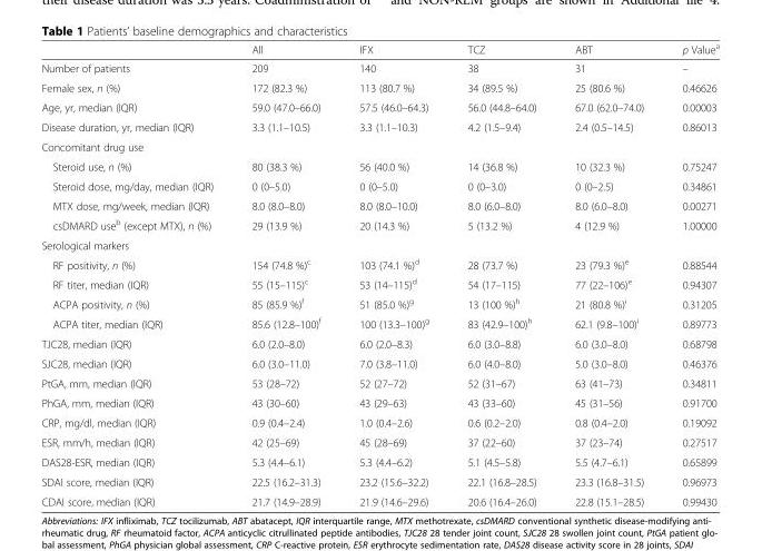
<table><thead><tr><td></td><td>All</td><td>IFX</td><td>TCZ</td><td>ABT</td><td>p Value<sup>a</sup></td></tr></thead><tbody><tr><td>Number of patients</td><td>209</td><td>140</td><td>38</td><td>31</td><td>–</td></tr><tr><td>Female sex, n (%)</td><td>172 (82.3 %)</td><td>113 (80.7 %)</td><td>34 (89.5 %)</td><td>25 (80.6 %)</td><td>0.46626</td></tr><tr><td>Age, yr, median (IQR)</td><td>59.0 (47.0–66.0)</td><td>57.5 (46.0–64.3)</td><td>56.0 (44.8–64.0)</td><td>67.0 (62.0–74.0)</td><td>0.00003</td></tr><tr><td>Disease duration, yr, median (IQR)</td><td>3.3 (1.1–10.5)</td><td>3.3 (1.1–10.3)</td><td>4.2 (1.5–9.4)</td><td>2.4 (0.5–14.5)</td><td>0.86013</td></tr><tr><td colspan="6">Concomitant drug use</td></tr><tr><td>Steroid use, n (%)</td><td>80 (38.3 %)</td><td>56 (40.0 %)</td><td>14 (36.8 %)</td><td>10 (32.3 %)</td><td>0.75247</td></tr><tr><td>Steroid dose, mg/day, median (IQR)</td><td>0 (0–5.0)</td><td>0 (0–5.0)</td><td>0 (0–3.0)</td><td>0 (0–2.5)</td><td>0.34861</td></tr><tr><td>MTX dose, mg/week, median (IQR)</td><td>8.0 (8.0–8.0)</td><td>8.0 (8.0–10.0)</td><td>8.0 (6.0–8.0)</td><td>8.0 (6.0–8.0)</td><td>0.00271</td></tr><tr><td>csDMARD use<sup>b</sup> (except MTX), n (%)</td><td>29 (13.9 %)</td><td>20 (14.3 %)</td><td>5 (13.2 %)</td><td>4 (12.9 %)</td><td>1.00000</td></tr><tr><td colspan="6">Serological markers</td></tr><tr><td>RF positivity, n (%)</td><td>154 (74.8 %)<sup>c</sup></td><td>103 (74.1 %)<sup>d</sup></td><td>28 (73.7 %)</td><td>23 (79.3 %)<sup>e</sup></td><td>0.88544</td></tr><tr><td>RF titer, median (IQR)</td><td>55 (15–115)<sup>c</sup></td><td>53 (14–115)<sup>d</sup></td><td>54 (17–115)</td><td>77 (22–106)<sup>e</sup></td><td>0.94307</td></tr><tr><td>ACPA positivity, n (%)</td><td>85 (85.9 %)<sup>f</sup></td><td>51 (85.0 %)<sup>g</sup></td><td>13 (100 %)<sup>h</sup></td><td>21 (80.8 %)<sup>i</sup></td><td>0.31205</td></tr><tr><td>ACPA titer, median (IQR)</td><td>85.6 (12.8–100)<sup>f</sup></td><td>100 (13.3–100)<sup>g</sup></td><td>83 (42.9–100)<sup>h</sup></td><td>62.1 (9.8–100)<sup>i</sup></td><td>0.89773</td></tr><tr><td>TJC28, median (IQR)</td><td>6.0 (2.0–8.0)</td><td>6.0 (2.0–8.3)</td><td>6.0 (3.0–8.8)</td><td>6.0 (3.0–8.0)</td><td>0.68798</td></tr><tr><td>SJC28, median (IQR)</td><td>6.0 (3.0–11.0)</td><td>7.0 (3.8–11.0)</td><td>6.0 (4.0–8.0)</td><td>5.0 (3.0–8.0)</td><td>0.46376</td></tr><tr><td>PtGA, mm, median (IQR)</td><td>53 (28–72)</td><td>52 (27–72)</td><td>52 (31–67)</td><td>63 (41–73)</td><td>0.34811</td></tr><tr><td>PhGA, mm, median (IQR)</td><td>43 (30–60)</td><td>43 (29–63)</td><td>43 (33–60)</td><td>45 (31–56)</td><td>0.91700</td></tr><tr><td>CRP, mg/dl, median (IQR)</td><td>0.9 (0.4–2.4)</td><td>1.0 (0.4–2.6)</td><td>0.6 (0.2–2.0)</td><td>0.8 (0.4–2.0)</td><td>0.19092</td></tr><tr><td>ESR, mm/h, median (IQR)</td><td>42 (25–69)</td><td>45 (28–69)</td><td>37 (22–60)</td><td>37 (23–74)</td><td>0.27517</td></tr><tr><td>DAS28-ESR, median (IQR)</td><td>5.3 (4.4–6.1)</td><td>5.3 (4.4–6.2)</td><td>5.1 (4.5–5.8)</td><td>5.5 (4.7–6.1)</td><td>0.65899</td></tr><tr><td>SDAI score, median (IQR)</td><td>22.5 (16.2–31.3)</td><td>23.2 (15.6–32.2)</td><td>22.1 (16.8–28.5)</td><td>23.3 (16.8–31.5)</td><td>0.96973</td></tr><tr><td>CDAI score, median (IQR)</td><td>21.7 (14.9–28.9)</td><td>21.9 (14.6–29.6)</td><td>20.6 (16.4–26.0)</td><td>22.8 (15.1–28.5)</td><td>0.99430</td></tr></tbody></table>